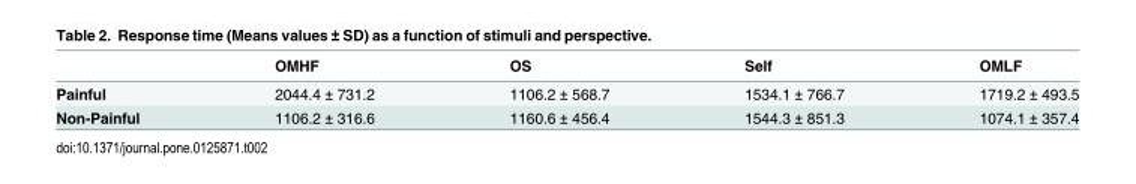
<table><thead><tr><td></td><td>OMHF</td><td>OS</td><td>Self</td><td>OMLF</td></tr></thead><tbody><tr><td>Painful</td><td>2044.4 ± 731.2</td><td>1106.2 ± 568.7</td><td>1534.1 ± 766.7</td><td>1719.2 ± 493.5</td></tr><tr><td>Non-Painful</td><td>1106.2 ± 316.6</td><td>1160.6 ± 456.4</td><td>1544.3 ± 851.3</td><td>1074.1 ± 357.4</td></tr></tbody></table>